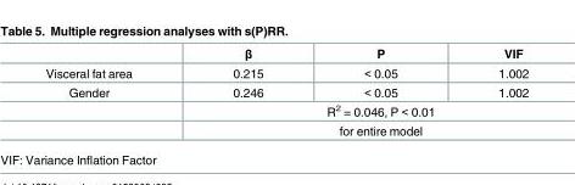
<table><thead><tr><td></td><td>β</td><td>P</td><td>VIF</td></tr></thead><tbody><tr><td>Visceral fat area</td><td>0.215</td><td>&lt; 0.05</td><td>1.002</td></tr><tr><td rowspan="3">Gender</td><td>0.246</td><td>&lt; 0.05</td><td>1.002</td></tr><tr><td colspan="3">R<sup>2</sup> = 0.046, P &lt; 0.01</td></tr><tr><td colspan="3">for entire model</td></tr></tbody></table>